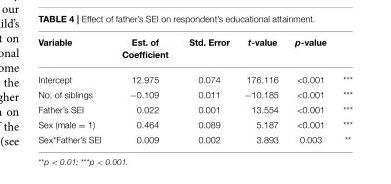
<table><thead><tr><td>Variable</td><td>Est. of Coefficient</td><td>Std. Error</td><td>t-value</td><td>p-value</td><td></td></tr></thead><tbody><tr><td>Intercept</td><td>12.975</td><td>0.074</td><td>176.116</td><td>&lt;0.001</td><td>***</td></tr><tr><td>No. of siblings</td><td>−0.109</td><td>0.011</td><td>−10.185</td><td>&lt;0.001</td><td>***</td></tr><tr><td>Father’s SEI</td><td>0.022</td><td>0.001</td><td>13.554</td><td>&lt;0.001</td><td>***</td></tr><tr><td>Sex (male = 1)</td><td>0.464</td><td>0.089</td><td>5.187</td><td>&lt;0.001</td><td>***</td></tr><tr><td>Sex*Father’s SEI</td><td>0.009</td><td>0.002</td><td>3.893</td><td>0.003</td><td>**</td></tr></tbody></table>